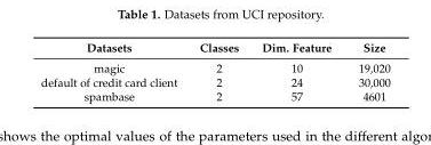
<table><thead><tr><td>Datasets</td><td>Classes</td><td>Dim. Feature</td><td>Size</td></tr></thead><tbody><tr><td>magic</td><td>2</td><td>10</td><td>19,020</td></tr><tr><td>default of credit card client</td><td>2</td><td>24</td><td>30,000</td></tr><tr><td>spambase</td><td>2</td><td>57</td><td>4601</td></tr></tbody></table>